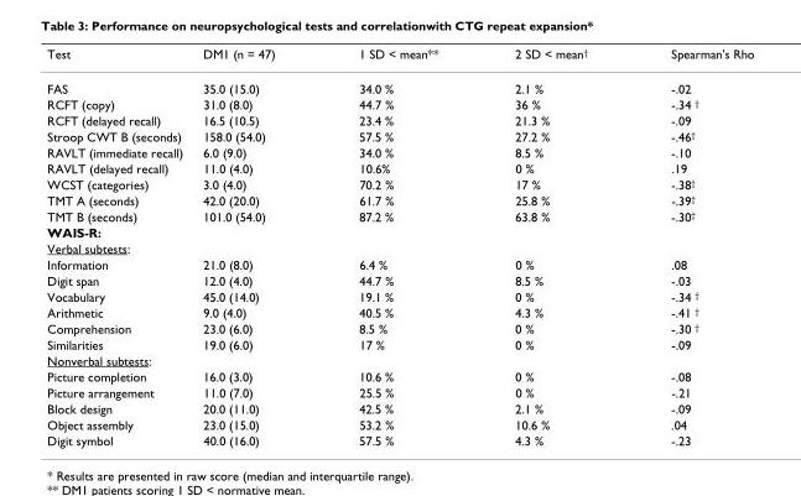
<table><thead><tr><td>Test</td><td>DM1 (n = 47)</td><td>1 SD &lt; mean**</td><td>2 SD &lt; mean<sup>†</sup></td><td>Spearman&#x27;s Rho</td></tr></thead><tbody><tr><td>FAS</td><td>35.0 (15.0)</td><td>34.0 %</td><td>2.1 %</td><td>-.02</td></tr><tr><td>RCFT (copy)</td><td>31.0 (8.0)</td><td>44.7 %</td><td>36 %</td><td>-.34 <sup>†</sup></td></tr><tr><td>RCFT (delayed recall)</td><td>16.5 (10.5)</td><td>23.4 %</td><td>21.3 %</td><td>-.09</td></tr><tr><td>Stroop CWT B (seconds)</td><td>158.0 (54.0)</td><td>57.5 %</td><td>27.2 %</td><td>-.46<sup>†</sup></td></tr><tr><td>RAVLT (immediate recall)</td><td>6.0 (9.0)</td><td>34.0 %</td><td>8.5 %</td><td>-.10</td></tr><tr><td>RAVLT (delayed recall)</td><td>11.0 (4.0)</td><td>10.6%</td><td>0 %</td><td>.19</td></tr><tr><td>WCST (categories)</td><td>3.0 (4.0)</td><td>70.2 %</td><td>17 %</td><td>-.38<sup>†</sup></td></tr><tr><td>TMT A (seconds)</td><td>42.0 (20.0)</td><td>61.7 %</td><td>25.8 %</td><td>-.39<sup>†</sup></td></tr><tr><td>TMT B (seconds)</td><td>101.0 (54.0)</td><td>87.2 %</td><td>63.8 %</td><td>-.30<sup>†</sup></td></tr><tr><td colspan="5">WAIS-R:</td></tr><tr><td colspan="5">Verbal subtests:</td></tr><tr><td>Information</td><td>21.0 (8.0)</td><td>6.4 %</td><td>0 %</td><td>.08</td></tr><tr><td>Digit span</td><td>12.0 (4.0)</td><td>44.7 %</td><td>8.5 %</td><td>-.03</td></tr><tr><td>Vocabulary</td><td>45.0 (14.0)</td><td>19.1 %</td><td>0 %</td><td>-.34 <sup>†</sup></td></tr><tr><td>Arithmetic</td><td>9.0 (4.0)</td><td>40.5 %</td><td>4.3 %</td><td>-.41 <sup>†</sup></td></tr><tr><td>Comprehension</td><td>23.0 (6.0)</td><td>8.5 %</td><td>0 %</td><td>-.30 <sup>†</sup></td></tr><tr><td>Similarities</td><td>19.0 (6.0)</td><td>17 %</td><td>0 %</td><td>-.09</td></tr><tr><td colspan="5">Nonverbal subtests:</td></tr><tr><td>Picture completion</td><td>16.0 (3.0)</td><td>10.6 %</td><td>0 %</td><td>-.08</td></tr><tr><td>Picture arrangement</td><td>11.0 (7.0)</td><td>25.5 %</td><td>0 %</td><td>-.21</td></tr><tr><td>Block design</td><td>20.0 (11.0)</td><td>42.5 %</td><td>2.1 %</td><td>-.09</td></tr><tr><td>Object assembly</td><td>23.0 (15.0)</td><td>53.2 %</td><td>10.6 %</td><td>.04</td></tr><tr><td>Digit symbol</td><td>40.0 (16.0)</td><td>57.5 %</td><td>4.3 %</td><td>-.23</td></tr></tbody></table>